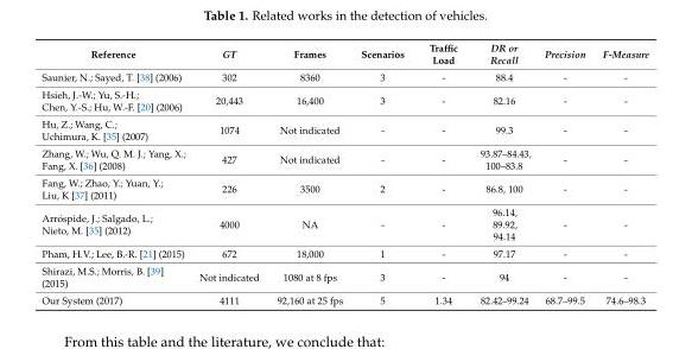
<table><thead><tr><td>Reference</td><td>GT</td><td>Frames</td><td>Scenarios</td><td>Traffic Load</td><td>DR or Recall</td><td>Precision</td><td>F-Measure</td></tr></thead><tbody><tr><td>Saunier, N.; Sayed, T. [38] (2006)</td><td>302</td><td>8360</td><td>3</td><td>-</td><td>88.4</td><td>-</td><td>-</td></tr><tr><td>Hsieh, J.-W.; Yu, S.-H.; Chen, Y.-S.; Hu, W.-F. [20] (2006)</td><td>20,443</td><td>16,400</td><td>3</td><td>-</td><td>82.16</td><td>-</td><td>-</td></tr><tr><td>Hu, Z.; Wang, C.; Uchimura, K. [35] (2007)</td><td>1074</td><td>Not indicated</td><td>-</td><td>-</td><td>99.3</td><td>-</td><td>-</td></tr><tr><td>Zhang, W.; Wu, Q. M. J.; Yang, X.; Fang, X. [36] (2008)</td><td>427</td><td>Not indicated</td><td>-</td><td>-</td><td>93.87–84.43, 100–83.8</td><td>-</td><td>-</td></tr><tr><td>Fang, W.; Zhao, Y.; Yuan, Y.; Liu, K [37] (2011)</td><td>226</td><td>3500</td><td>2</td><td>-</td><td>86.8, 100</td><td>-</td><td>-</td></tr><tr><td>Arróspide, J.; Salgado, L.; Nieto, M. [35] (2012)</td><td>4000</td><td>NA</td><td>-</td><td>-</td><td>96.14, 89.92, 94.14</td><td>-</td><td>-</td></tr><tr><td>Pham, H.V.; Lee, B.-R. [21] (2015)</td><td>672</td><td>18,000</td><td>1</td><td>-</td><td>97.17</td><td>-</td><td>-</td></tr><tr><td>Shirazi, M.S.; Morris, B. [39] (2015)</td><td>Not indicated</td><td>1080 at 8 fps</td><td>3</td><td>-</td><td>94</td><td>-</td><td>-</td></tr><tr><td>Our System (2017)</td><td>4111</td><td>92,160 at 25 fps</td><td>5</td><td>1.34</td><td>82.42–99.24</td><td>68.7–99.5</td><td>74.6–98.3</td></tr></tbody></table>